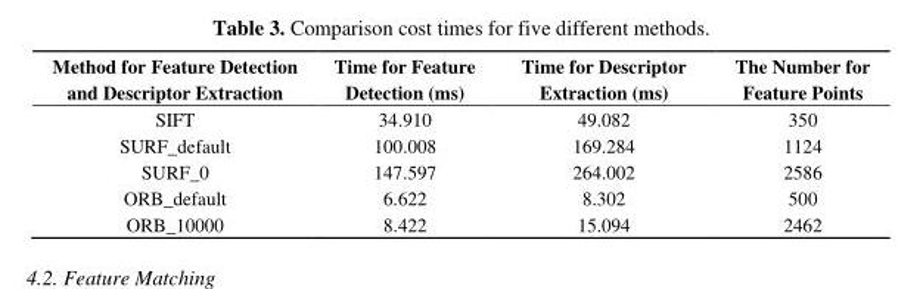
<table><thead><tr><td>Method for Feature Detection and Descriptor Extraction</td><td>Time for Feature Detection (ms)</td><td>Time for Descriptor Extraction (ms)</td><td>The Number for Feature Points</td></tr></thead><tbody><tr><td>SIFT</td><td>34.910</td><td>49.082</td><td>350</td></tr><tr><td>SURF_default</td><td>100.008</td><td>169.284</td><td>1124</td></tr><tr><td>SURF_0</td><td>147.597</td><td>264.002</td><td>2586</td></tr><tr><td>ORB_default</td><td>6.622</td><td>8.302</td><td>500</td></tr><tr><td>ORB_10000</td><td>8.422</td><td>15.094</td><td>2462</td></tr></tbody></table>